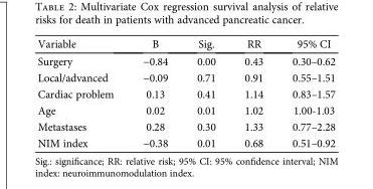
<table><thead><tr><td>Variable</td><td>B</td><td>Sig.</td><td>RR</td><td>95% CI</td></tr></thead><tbody><tr><td>Surgery</td><td>−0.84</td><td>0.00</td><td>0.43</td><td>0.30–0.62</td></tr><tr><td>Local/advanced</td><td>−0.09</td><td>0.71</td><td>0.91</td><td>0.55–1.51</td></tr><tr><td>Cardiac problem</td><td>0.13</td><td>0.41</td><td>1.14</td><td>0.83–1.57</td></tr><tr><td>Age</td><td>0.02</td><td>0.01</td><td>1.02</td><td>1.00-1.03</td></tr><tr><td>Metastases</td><td>0.28</td><td>0.30</td><td>1.33</td><td>0.77–2.28</td></tr><tr><td>NIM index</td><td>−0.38</td><td>0.01</td><td>0.68</td><td>0.51–0.92</td></tr></tbody></table>